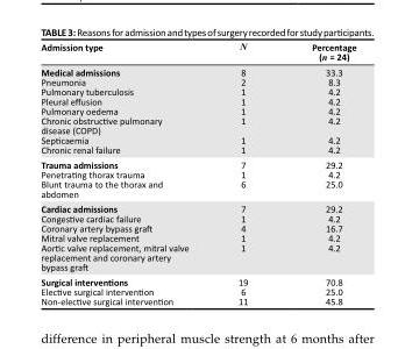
<table><thead><tr><td>Admission type</td><td>N</td><td>Percentage (n = 24)</td></tr></thead><tbody><tr><td>Medical admissions Pneumonia Pulmonary tuberculosis Pleural effusion Pulmonary oedema Chronic obstructive pulmonary disease (COPD) Septicaemia Chronic renal failure</td><td>8 2 1 1 1 1 1 1</td><td>33.3 8.3 4.2 4.2 4.2 4.2 4.2 4.2</td></tr><tr><td>Trauma admissions Penetrating thorax trauma Blunt trauma to the thorax and abdomen</td><td>7 1 6</td><td>29.2 4.2 25.0</td></tr><tr><td>Cardiac admissions Congestive cardiac failure Coronary artery bypass graft Mitral valve replacement Aortic valve replacement, mitral valve replacement and coronary artery bypass graft</td><td>7 1 4 1 1</td><td>29.2 4.2 16.7 4.2 4.2</td></tr><tr><td>Surgical interventions Elective surgical intervention Non-elective surgical intervention</td><td>19 6 11</td><td>70.8 25.0 45.8</td></tr></tbody></table>